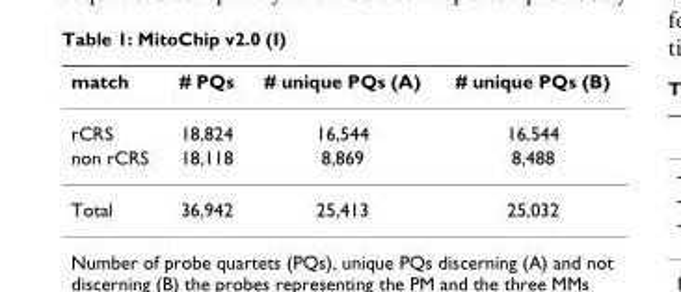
<table><thead><tr><td>match</td><td># PQs</td><td># unique PQs (A)</td><td># unique PQs (B)</td></tr></thead><tbody><tr><td>rCRS</td><td>18,824</td><td>16,544</td><td>16,544</td></tr><tr><td>non rCRS</td><td>18,118</td><td>8,869</td><td>8,488</td></tr><tr><td>Total</td><td>36,942</td><td>25,413</td><td>25,032</td></tr></tbody></table>